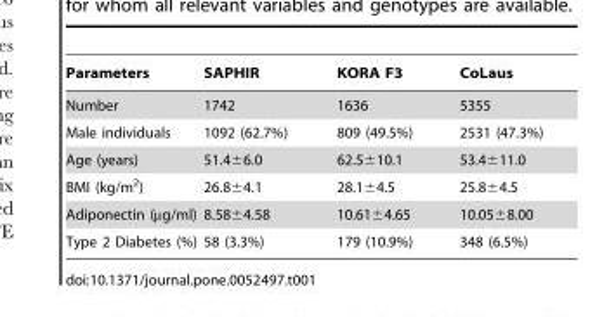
<table><thead><tr><td>Parameters</td><td>SAPHIR</td><td>KORA F3</td><td>CoLaus</td></tr></thead><tbody><tr><td>Number</td><td>1742</td><td>1636</td><td>5355</td></tr><tr><td>Male individuals</td><td>1092 (62.7%)</td><td>809 (49.5%)</td><td>2531 (47.3%)</td></tr><tr><td>Age (years)</td><td>51.4±6.0</td><td>62.5±10.1</td><td>53.4±11.0</td></tr><tr><td>BMI (kg/m<sup>2</sup>)</td><td>26.8±4.1</td><td>28.1±4.5</td><td>25.8±4.5</td></tr><tr><td>Adiponectin (µg/ml)</td><td>8.58±4.58</td><td>10.61±4.65</td><td>10.05±8.00</td></tr><tr><td>Type 2 Diabetes (%)</td><td>58 (3.3%)</td><td>179 (10.9%)</td><td>348 (6.5%)</td></tr></tbody></table>